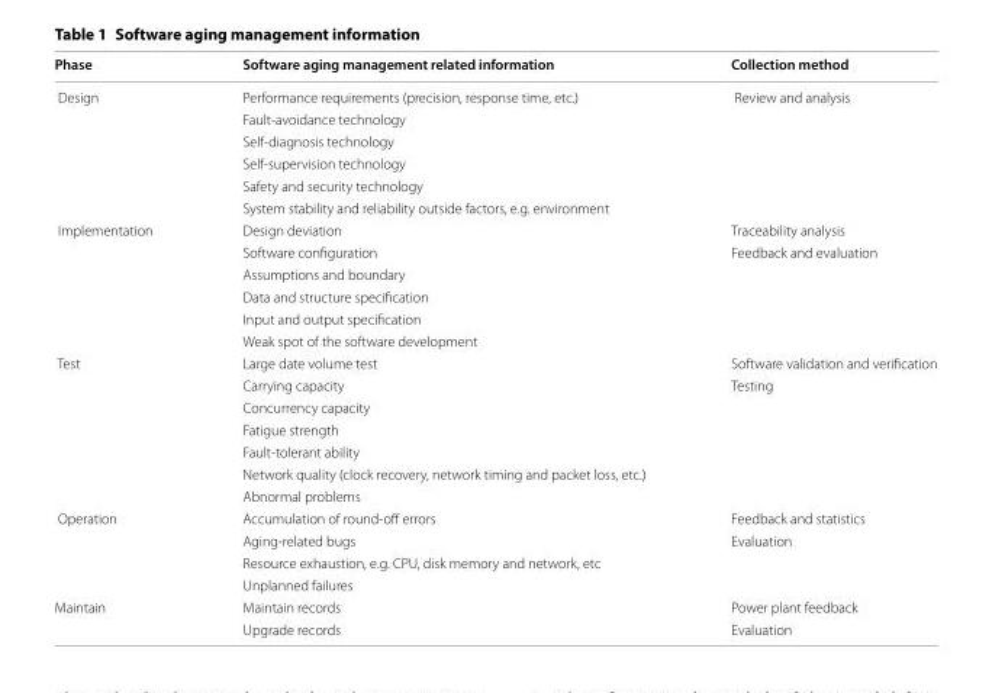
<table><thead><tr><td>Phase</td><td>Software aging management related information</td><td>Collection method</td></tr></thead><tbody><tr><td rowspan="6">Design</td><td>Performance requirements (precision, response time, etc.)</td><td rowspan="6">Review and analysis</td></tr><tr><td>Fault-avoidance technology</td></tr><tr><td>Self-diagnosis technology</td></tr><tr><td>Self-supervision technology</td></tr><tr><td>Safety and security technology</td></tr><tr><td>System stability and reliability outside factors, e.g. environment</td></tr><tr><td rowspan="6">Implementation</td><td>Design deviation</td><td>Traceability analysis</td></tr><tr><td>Software configuration</td><td>Feedback and evaluation</td></tr><tr><td>Assumptions and boundary</td><td></td></tr><tr><td>Data and structure specification</td><td></td></tr><tr><td>Input and output specification</td><td></td></tr><tr><td>Weak spot of the software development</td><td></td></tr><tr><td rowspan="7">Test</td><td>Large date volume test</td><td>Software validation and verification</td></tr><tr><td>Carrying capacity</td><td>Testing</td></tr><tr><td>Concurrency capacity</td><td></td></tr><tr><td>Fatigue strength</td><td></td></tr><tr><td>Fault-tolerant ability</td><td></td></tr><tr><td>Network quality (clock recovery, network timing and packet loss, etc.)</td><td></td></tr><tr><td>Abnormal problems</td><td></td></tr><tr><td rowspan="4">Operation</td><td>Accumulation of round-off errors</td><td>Feedback and statistics</td></tr><tr><td>Aging-related bugs</td><td>Evaluation</td></tr><tr><td>Resource exhaustion, e.g. CPU, disk memory and network, etc</td><td></td></tr><tr><td>Unplanned failures</td><td></td></tr><tr><td rowspan="2">Maintain</td><td>Maintain records</td><td>Power plant feedback</td></tr><tr><td>Upgrade records</td><td>Evaluation</td></tr></tbody></table>